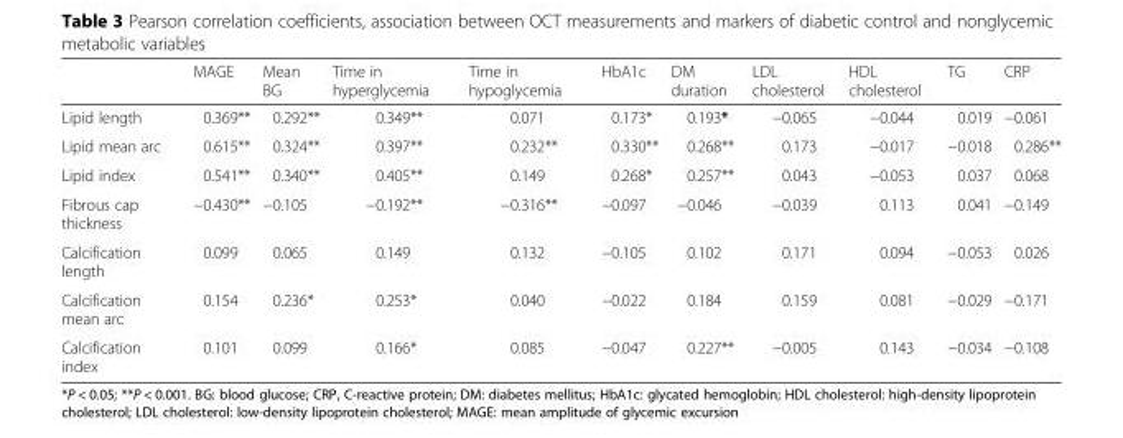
<table><thead><tr><td></td><td>MAGE</td><td>Mean BG</td><td>Time in hyperglycemia</td><td>Time in hypoglycemia</td><td>HbA1c</td><td>DM duration</td><td>LDL cholesterol</td><td>HDL cholesterol</td><td>TG</td><td>CRP</td></tr></thead><tbody><tr><td>Lipid length</td><td>0.369**</td><td>0.292**</td><td>0.349**</td><td>0.071</td><td>0.173*</td><td>0.193*</td><td>−0.065</td><td>−0.044</td><td>0.019</td><td>−0.061</td></tr><tr><td>Lipid mean arc</td><td>0.615**</td><td>0.324**</td><td>0.397**</td><td>0.232**</td><td>0.330**</td><td>0.268**</td><td>0.173</td><td>−0.017</td><td>−0.018</td><td>0.286**</td></tr><tr><td>Lipid index</td><td>0.541**</td><td>0.340**</td><td>0.405**</td><td>0.149</td><td>0.268*</td><td>0.257**</td><td>0.043</td><td>−0.053</td><td>0.037</td><td>0.068</td></tr><tr><td>Fibrous cap thickness</td><td>−0.430**</td><td>−0.105</td><td>−0.192**</td><td>−0.316**</td><td>−0.097</td><td>−0.046</td><td>−0.039</td><td>0.113</td><td>0.041</td><td>−0.149</td></tr><tr><td>Calcification length</td><td>0.099</td><td>0.065</td><td>0.149</td><td>0.132</td><td>−0.105</td><td>0.102</td><td>0.171</td><td>0.094</td><td>−0.053</td><td>0.026</td></tr><tr><td>Calcification mean arc</td><td>0.154</td><td>0.236*</td><td>0.253*</td><td>0.040</td><td>−0.022</td><td>0.184</td><td>0.159</td><td>0.081</td><td>−0.029</td><td>−0.171</td></tr><tr><td>Calcification index</td><td>0.101</td><td>0.099</td><td>0.166*</td><td>0.085</td><td>−0.047</td><td>0.227**</td><td>−0.005</td><td>0.143</td><td>−0.034</td><td>−0.108</td></tr></tbody></table>